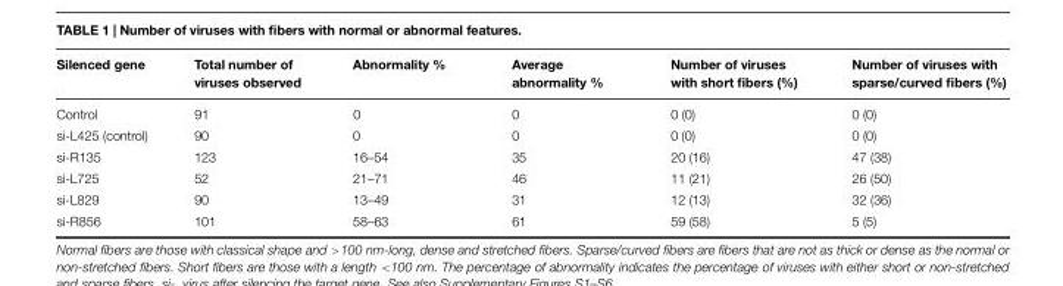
<table><thead><tr><td>Silenced gene</td><td>Total number of viruses observed</td><td>Abnormality %</td><td>Average abnormality %</td><td>Number of viruses with short fibers (%)</td><td>Number of viruses with sparse/curved fibers (%)</td></tr></thead><tbody><tr><td>Control</td><td>91</td><td>0</td><td>0</td><td>0 (0)</td><td>0 (0)</td></tr><tr><td>si-L425 (control)</td><td>90</td><td>0</td><td>0</td><td>0 (0)</td><td>0 (0)</td></tr><tr><td>si-R135</td><td>123</td><td>16–54</td><td>35</td><td>20 (16)</td><td>47 (38)</td></tr><tr><td>si-L725</td><td>52</td><td>21–71</td><td>46</td><td>11 (21)</td><td>26 (50)</td></tr><tr><td>si-L829</td><td>90</td><td>13–49</td><td>31</td><td>12 (13)</td><td>32 (36)</td></tr><tr><td>si-R856</td><td>101</td><td>58–63</td><td>61</td><td>59 (58)</td><td>5 (5)</td></tr></tbody></table>